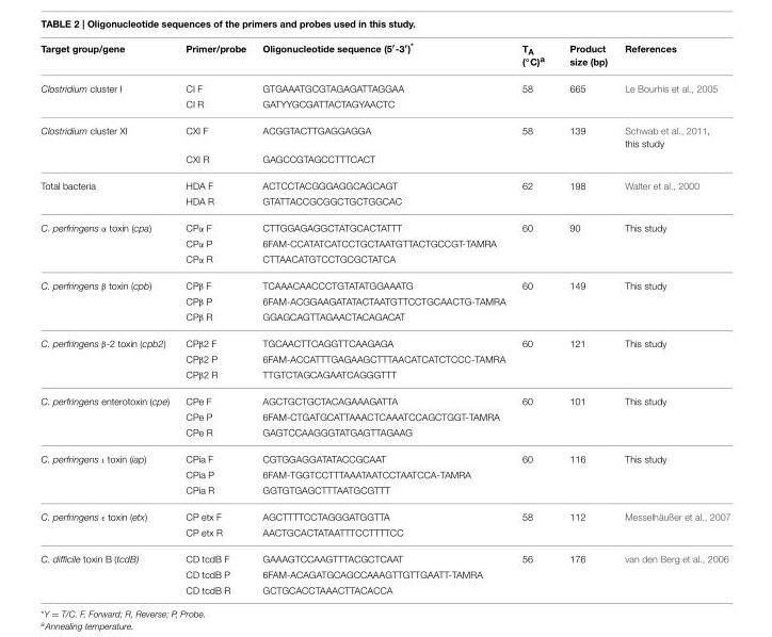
<table><thead><tr><td>Target group/gene</td><td>Primer/probe</td><td>Oligonucleotide sequence (5′-3′)*</td><td>TA (◦C)a</td><td>Product size (bp)</td><td>References</td></tr></thead><tbody><tr><td rowspan="2">Clostridium cluster I</td><td>CI F</td><td>GTGAAATGCGTAGAGATTAGGAA</td><td>58</td><td>665</td><td>Le Bourhis et al., 2005</td></tr><tr><td>CI R</td><td>GATYYGCGATTACTAGYAACTC</td><td></td><td></td><td></td></tr><tr><td rowspan="2">Clostridium cluster XI</td><td>CXI F</td><td>ACGGTACTTGAGGAGGA</td><td>58</td><td>139</td><td>Schwab et al., 2011, this study</td></tr><tr><td>CXI R</td><td>GAGCCGTAGCCTTTCACT</td><td></td><td></td><td></td></tr><tr><td rowspan="2">Total bacteria</td><td>HDA F</td><td>ACTCCTACGGGAGGCAGCAGT</td><td>62</td><td>198</td><td>Walter et al., 2000</td></tr><tr><td>HDA R</td><td>GTATTACCGCGGCTGCTGGCAC</td><td></td><td></td><td></td></tr><tr><td rowspan="3">C. perfringens α toxin (cpa)</td><td>CPα F</td><td>CTTGGAGAGGCTATGCACTATTT</td><td>60</td><td>90</td><td>This study</td></tr><tr><td>CPα P</td><td>6FAM-CCATATCATCCTGCTAATGTTACTGCCGT-TAMRA</td><td></td><td></td><td></td></tr><tr><td>CPα R</td><td>CTTAACATGTCCTGCGCTATCA</td><td></td><td></td><td></td></tr><tr><td rowspan="3">C. perfringens β toxin (cpb)</td><td>CPβ F</td><td>TCAAACAACCCTGTATATGGAAATG</td><td>60</td><td>149</td><td>This study</td></tr><tr><td>CPβ P</td><td>6FAM-ACGGAAGATATACTAATGTTCCTGCAACTG-TAMRA</td><td></td><td></td><td></td></tr><tr><td>CPβ R</td><td>GGAGCAGTTAGAACTACAGACAT</td><td></td><td></td><td></td></tr><tr><td rowspan="3">C. perfringens β-2 toxin (cpb2)</td><td>CPβ2 F</td><td>TGCAACTTCAGGTTCAAGAGA</td><td>60</td><td>121</td><td>This study</td></tr><tr><td>CPβ2 P</td><td>6FAM-ACCATTTGAGAAGCTTTAACATCATCTCCC-TAMRA</td><td></td><td></td><td></td></tr><tr><td>CPβ2 R</td><td>TTGTCTAGCAGAATCAGGGTTT</td><td></td><td></td><td></td></tr><tr><td rowspan="3">C. perfringens enterotoxin (cpe)</td><td>CPe F</td><td>AGCTGCTGCTACAGAAAGATTA</td><td>60</td><td>101</td><td>This study</td></tr><tr><td>CPe P</td><td>6FAM-CTGATGCATTAAACTCAAATCCAGCTGGT-TAMRA</td><td></td><td></td><td></td></tr><tr><td>CPe R</td><td>GAGTCCAAGGGTATGAGTTAGAAG</td><td></td><td></td><td></td></tr><tr><td rowspan="3">C. perfringens ι toxin (iap)</td><td>CPia F</td><td>CGTGGAGGATATACCGCAAT</td><td>60</td><td>116</td><td>This study</td></tr><tr><td>CPia P</td><td>6FAM-TGGTCCTTTAAATAATCCTAATCCA-TAMRA</td><td></td><td></td><td></td></tr><tr><td>CPia R</td><td>GGTGTGAGCTTTAATGCGTTT</td><td></td><td></td><td></td></tr><tr><td rowspan="2">C. perfringens ε toxin (etx)</td><td>CP etx F</td><td>AGCTTTTCCTAGGGATGGTTA</td><td>58</td><td>112</td><td>Messelhäußer et al., 2007</td></tr><tr><td>CP etx R</td><td>AACTGCACTATAATTTCCTTTTCC</td><td></td><td></td><td></td></tr><tr><td rowspan="3">C. difficile toxin B (tcdB)</td><td>CD tcdB F</td><td>GAAAGTCCAAGTTTACGCTCAAT</td><td>56</td><td>176</td><td>van den Berg et al., 2006</td></tr><tr><td>CD tcdB P</td><td>6FAM-ACAGATGCAGCCAAAGTTGTTGAATT-TAMRA</td><td></td><td></td><td></td></tr><tr><td>CD tcdB R</td><td>GCTGCACCTAAACTTACACCA</td><td></td><td></td><td></td></tr></tbody></table>